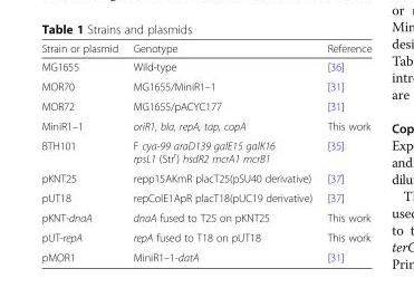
<table><thead><tr><td>Strain or plasmid</td><td>Genotype</td><td>Reference</td></tr></thead><tbody><tr><td>MG1655</td><td>Wild-type</td><td>[36]</td></tr><tr><td>MOR70</td><td>MG1655/MiniR1–1</td><td>[31]</td></tr><tr><td>MOR72</td><td>MG1655/pACYC177</td><td>[31]</td></tr><tr><td>MiniR1–1</td><td>oriR1, bla, repA, tap, copA</td><td>This work</td></tr><tr><td>BTH101</td><td>F cya-99 araD139 galE15 galK16 rpsL1 (Str<sup>r</sup>) hsdR2 mcrA1 mcrB1</td><td>[35]</td></tr><tr><td>pKNT25</td><td>repp15AKmR placT25(pSU40 derivative)</td><td>[37]</td></tr><tr><td>pUT18</td><td>repColE1ApR placT18(pUC19 derivative)</td><td>[37]</td></tr><tr><td>pKNT-dnaA</td><td>dnaA fused to T25 on pKNT25</td><td>This work</td></tr><tr><td>pUT-repA</td><td>repA fused to T18 on pUT18</td><td>This work</td></tr><tr><td>pMOR1</td><td>MiniR1–1-datA</td><td>[31]</td></tr></tbody></table>